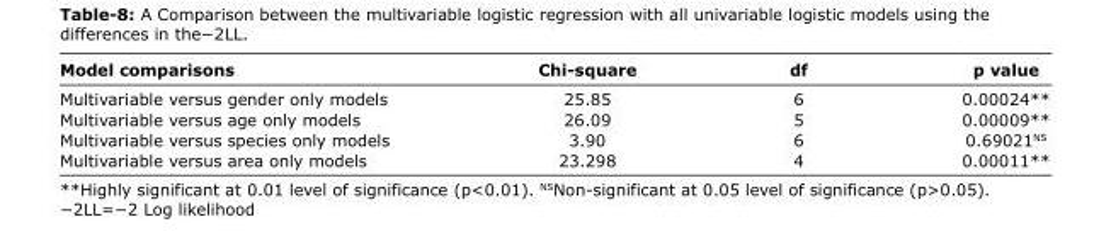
<table><thead><tr><td>Model comparisons</td><td>Chi-square</td><td>df</td><td>p value</td></tr></thead><tbody><tr><td>Multivariable versus gender only models</td><td>25.85</td><td>6</td><td>0.00024**</td></tr><tr><td>Multivariable versus age only models</td><td>26.09</td><td>5</td><td>0.00009**</td></tr><tr><td>Multivariable versus species only models</td><td>3.90</td><td>6</td><td>0.69021<sup>NS</sup></td></tr><tr><td>Multivariable versus area only models</td><td>23.298</td><td>4</td><td>0.00011**</td></tr></tbody></table>